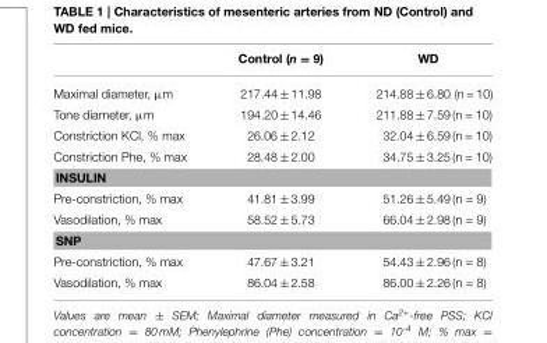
<table><thead><tr><td></td><td>Control (n = 9)</td><td>WD</td></tr></thead><tbody><tr><td>Maximal diameter, µm</td><td>217.44 ± 11.98</td><td>214.88 ± 6.80 (n = 10)</td></tr><tr><td>Tone diameter, µm</td><td>194.20 ± 14.46</td><td>211.88 ± 7.59 (n = 10)</td></tr><tr><td>Constriction KCl, % max</td><td>26.06 ± 2.12</td><td>32.04 ± 6.59 (n = 10)</td></tr><tr><td>Constriction Phe, % max</td><td>28.48 ± 2.00</td><td>34.75 ± 3.25 (n = 10)</td></tr><tr><td colspan="3">INSULIN</td></tr><tr><td>Pre-constriction, % max</td><td>41.81 ± 3.99</td><td>51.26 ± 5.49 (n = 9)</td></tr><tr><td>Vasodilation, % max</td><td>58.52 ± 5.73</td><td>66.04 ± 2.98 (n = 9)</td></tr><tr><td colspan="3">SNP</td></tr><tr><td>Pre-constriction, % max</td><td>47.67 ± 3.21</td><td>54.43 ± 2.96 (n = 8)</td></tr><tr><td>Vasodilation, % max</td><td>86.04 ± 2.58</td><td>86.00 ± 2.26 (n = 8)</td></tr></tbody></table>